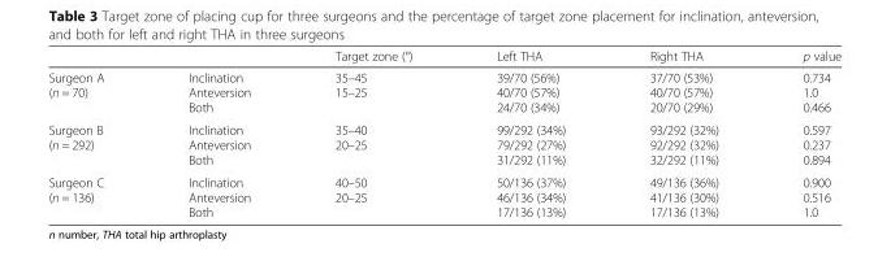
<table><thead><tr><td></td><td></td><td>Target zone (°)</td><td>Left THA</td><td>Right THA</td><td>p value</td></tr></thead><tbody><tr><td>Surgeon A (n = 70)</td><td>Inclination Anteversion Both</td><td>35–45 15–25</td><td>39/70 (56%) 40/70 (57%) 24/70 (34%)</td><td>37/70 (53%) 40/70 (57%) 20/70 (29%)</td><td>0.734 1.0 0.466</td></tr><tr><td>Surgeon B (n = 292)</td><td>Inclination Anteversion Both</td><td>35–40 20–25</td><td>99/292 (34%) 79/292 (27%) 31/292 (11%)</td><td>93/292 (32%) 92/292 (32%) 32/292 (11%)</td><td>0.597 0.237 0.894</td></tr><tr><td>Surgeon C (n = 136)</td><td>Inclination Anteversion Both</td><td>40–50 20–25</td><td>50/136 (37%) 46/136 (34%) 17/136 (13%)</td><td>49/136 (36%) 41/136 (30%) 17/136 (13%)</td><td>0.900 0.516 1.0</td></tr></tbody></table>